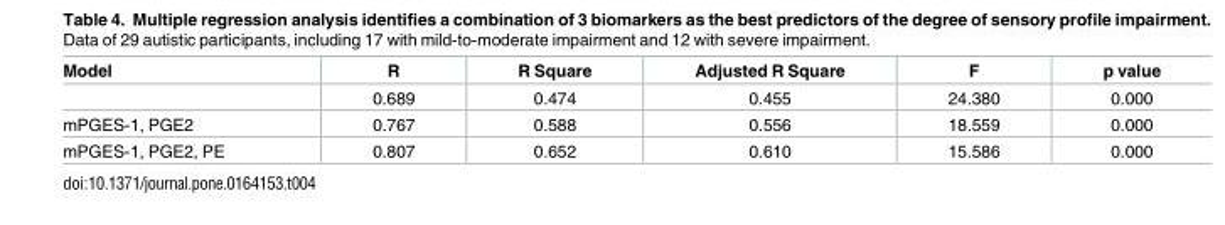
<table><thead><tr><td>Model</td><td>R</td><td>R Square</td><td>Adjusted R Square</td><td>F</td><td>p value</td></tr></thead><tbody><tr><td></td><td>0.689</td><td>0.474</td><td>0.455</td><td>24.380</td><td>0.000</td></tr><tr><td>mPGES-1, PGE2</td><td>0.767</td><td>0.588</td><td>0.556</td><td>18.559</td><td>0.000</td></tr><tr><td>mPGES-1, PGE2, PE</td><td>0.807</td><td>0.652</td><td>0.610</td><td>15.586</td><td>0.000</td></tr></tbody></table>